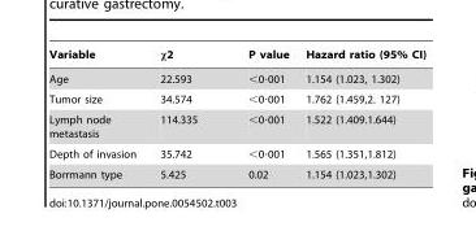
<table><thead><tr><td>Variable</td><td>x2</td><td>P value</td><td>Hazard ratio (95% CI)</td></tr></thead><tbody><tr><td>Age</td><td>22.593</td><td>&lt;0·001</td><td>1.154 (1.023, 1.302)</td></tr><tr><td>Tumor size</td><td>34.574</td><td>&lt;0·001</td><td>1.762 (1.459,2. 127)</td></tr><tr><td>Lymph node metastasis</td><td>114.335</td><td>&lt;0·001</td><td>1.522 (1.409.1.644)</td></tr><tr><td>Depth of invasion</td><td>35.742</td><td>&lt;0·001</td><td>1.565 (1.351,1.812)</td></tr><tr><td>Borrmann type</td><td>5.425</td><td>0.02</td><td>1.154 (1.023,1.302)</td></tr></tbody></table>